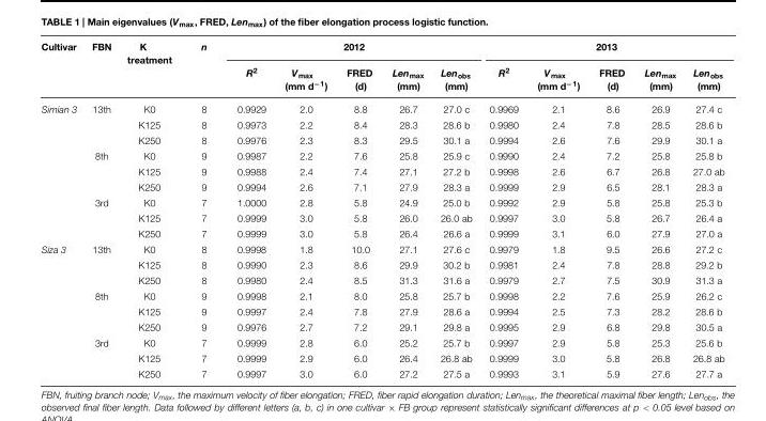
<table><thead><tr><td rowspan="2">Cultivar</td><td rowspan="2">FBN</td><td rowspan="2">K treatment</td><td rowspan="2">n</td><td colspan="5">2012</td><td colspan="5">2013</td></tr><tr><td>R<sup>2</sup></td><td>V<sub>max</sub> (mm d<sup>−1</sup>)</td><td>FRED (d)</td><td>Len<sub>max</sub> (mm)</td><td>Len<sub>obs</sub> (mm)</td><td>R<sup>2</sup></td><td>V<sub>max</sub> (mm d<sup>−1</sup>)</td><td>FRED (d)</td><td>Len<sub>max</sub> (mm)</td><td>Len<sub>obs</sub> (mm)</td></tr></thead><tbody><tr><td rowspan="9">Simian 3</td><td>13th</td><td>K0</td><td>8</td><td>0.9929</td><td>2.0</td><td>8.8</td><td>26.7</td><td>27.0 c</td><td>0.9969</td><td>2.1</td><td>8.6</td><td>26.9</td><td>27.4 c</td></tr><tr><td></td><td>K125</td><td>8</td><td>0.9973</td><td>2.2</td><td>8.4</td><td>28.3</td><td>28.6 b</td><td>0.9980</td><td>2.4</td><td>7.8</td><td>28.5</td><td>28.6 b</td></tr><tr><td></td><td>K250</td><td>8</td><td>0.9976</td><td>2.3</td><td>8.3</td><td>29.5</td><td>30.1 a</td><td>0.9994</td><td>2.6</td><td>7.6</td><td>29.9</td><td>30.1 a</td></tr><tr><td>8th</td><td>K0</td><td>9</td><td>0.9987</td><td>2.2</td><td>7.6</td><td>25.8</td><td>25.9 c</td><td>0.9990</td><td>2.4</td><td>7.2</td><td>25.8</td><td>25.8 b</td></tr><tr><td></td><td>K125</td><td>9</td><td>0.9988</td><td>2.4</td><td>7.4</td><td>27.1</td><td>27.2 b</td><td>0.9998</td><td>2.6</td><td>6.7</td><td>26.8</td><td>27.0 ab</td></tr><tr><td></td><td>K250</td><td>9</td><td>0.9994</td><td>2.6</td><td>7.1</td><td>27.9</td><td>28.3 a</td><td>0.9999</td><td>2.9</td><td>6.5</td><td>28.1</td><td>28.3 a</td></tr><tr><td>3rd</td><td>K0</td><td>7</td><td>1.0000</td><td>2.8</td><td>5.8</td><td>24.9</td><td>25.0 b</td><td>0.9992</td><td>2.9</td><td>5.8</td><td>25.8</td><td>25.3 b</td></tr><tr><td></td><td>K125</td><td>7</td><td>0.9999</td><td>3.0</td><td>5.8</td><td>26.0</td><td>26.0 ab</td><td>0.9997</td><td>3.0</td><td>5.8</td><td>26.7</td><td>26.4 a</td></tr><tr><td></td><td>K250</td><td>7</td><td>0.9999</td><td>3.0</td><td>5.8</td><td>26.4</td><td>26.6 a</td><td>0.9999</td><td>3.1</td><td>6.0</td><td>27.9</td><td>27.0 a</td></tr><tr><td rowspan="9">Siza 3</td><td>13th</td><td>K0</td><td>8</td><td>0.9998</td><td>1.8</td><td>10.0</td><td>27.1</td><td>27.6 c</td><td>0.9979</td><td>1.8</td><td>9.5</td><td>26.6</td><td>27.2 c</td></tr><tr><td></td><td>K125</td><td>8</td><td>0.9990</td><td>2.3</td><td>8.6</td><td>29.9</td><td>30.2 b</td><td>0.9981</td><td>2.4</td><td>7.8</td><td>28.8</td><td>29.2 b</td></tr><tr><td></td><td>K250</td><td>8</td><td>0.9980</td><td>2.4</td><td>8.5</td><td>31.3</td><td>31.6 a</td><td>0.9979</td><td>2.7</td><td>7.5</td><td>30.9</td><td>31.3 a</td></tr><tr><td>8th</td><td>K0</td><td>9</td><td>0.9998</td><td>2.1</td><td>8.0</td><td>25.8</td><td>25.7 b</td><td>0.9998</td><td>2.2</td><td>7.6</td><td>25.9</td><td>26.2 c</td></tr><tr><td></td><td>K125</td><td>9</td><td>0.9997</td><td>2.4</td><td>7.8</td><td>27.9</td><td>28.6 a</td><td>0.9994</td><td>2.5</td><td>7.3</td><td>28.2</td><td>28.6 b</td></tr><tr><td></td><td>K250</td><td>9</td><td>0.9976</td><td>2.7</td><td>7.2</td><td>29.1</td><td>29.8 a</td><td>0.9995</td><td>2.9</td><td>6.8</td><td>29.8</td><td>30.5 a</td></tr><tr><td>3rd</td><td>K0</td><td>7</td><td>0.9999</td><td>2.8</td><td>6.0</td><td>25.2</td><td>25.7 b</td><td>0.9997</td><td>2.9</td><td>5.8</td><td>25.3</td><td>25.6 b</td></tr><tr><td></td><td>K125</td><td>7</td><td>0.9999</td><td>2.9</td><td>6.0</td><td>26.4</td><td>26.8 ab</td><td>0.9999</td><td>3.0</td><td>5.8</td><td>26.8</td><td>26.8 ab</td></tr><tr><td></td><td>K250</td><td>7</td><td>0.9997</td><td>3.0</td><td>6.0</td><td>27.2</td><td>27.5 a</td><td>0.9993</td><td>3.1</td><td>5.9</td><td>27.6</td><td>27.7 a</td></tr></tbody></table>